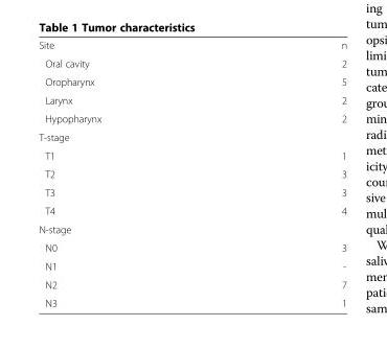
<table><tbody><tr><td>Site</td><td>n</td></tr><tr><td>Oral cavity</td><td>2</td></tr><tr><td>Oropharynx</td><td>5</td></tr><tr><td>Larynx</td><td>2</td></tr><tr><td>Hypopharynx</td><td>2</td></tr><tr><td colspan="2">T-stage</td></tr><tr><td>T1</td><td>1</td></tr><tr><td>T2</td><td>3</td></tr><tr><td>T3</td><td>3</td></tr><tr><td>T4</td><td>4</td></tr><tr><td colspan="2">N-stage</td></tr><tr><td>N0</td><td>3</td></tr><tr><td>N1</td><td>-</td></tr><tr><td>N2</td><td>7</td></tr><tr><td>N3</td><td>1</td></tr></tbody></table>